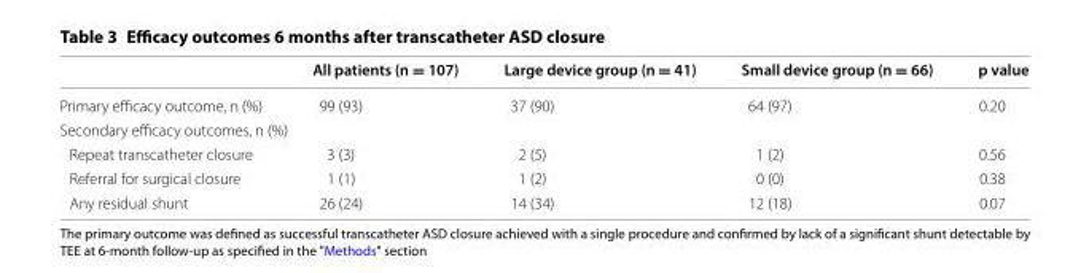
<table><thead><tr><td></td><td>All patients (n = 107)</td><td>Large device group (n = 41)</td><td>Small device group (n = 66)</td><td>p value</td></tr></thead><tbody><tr><td>Primary efficacy outcome, n (%)</td><td>99 (93)</td><td>37 (90)</td><td>64 (97)</td><td>0.20</td></tr><tr><td colspan="5">Secondary efficacy outcomes, n (%)</td></tr><tr><td>Repeat transcatheter closure</td><td>3 (3)</td><td>2 (5)</td><td>1 (2)</td><td>0.56</td></tr><tr><td>Referral for surgical closure</td><td>1 (1)</td><td>1 (2)</td><td>0 (0)</td><td>0.38</td></tr><tr><td>Any residual shunt</td><td>26 (24)</td><td>14 (34)</td><td>12 (18)</td><td>0.07</td></tr></tbody></table>